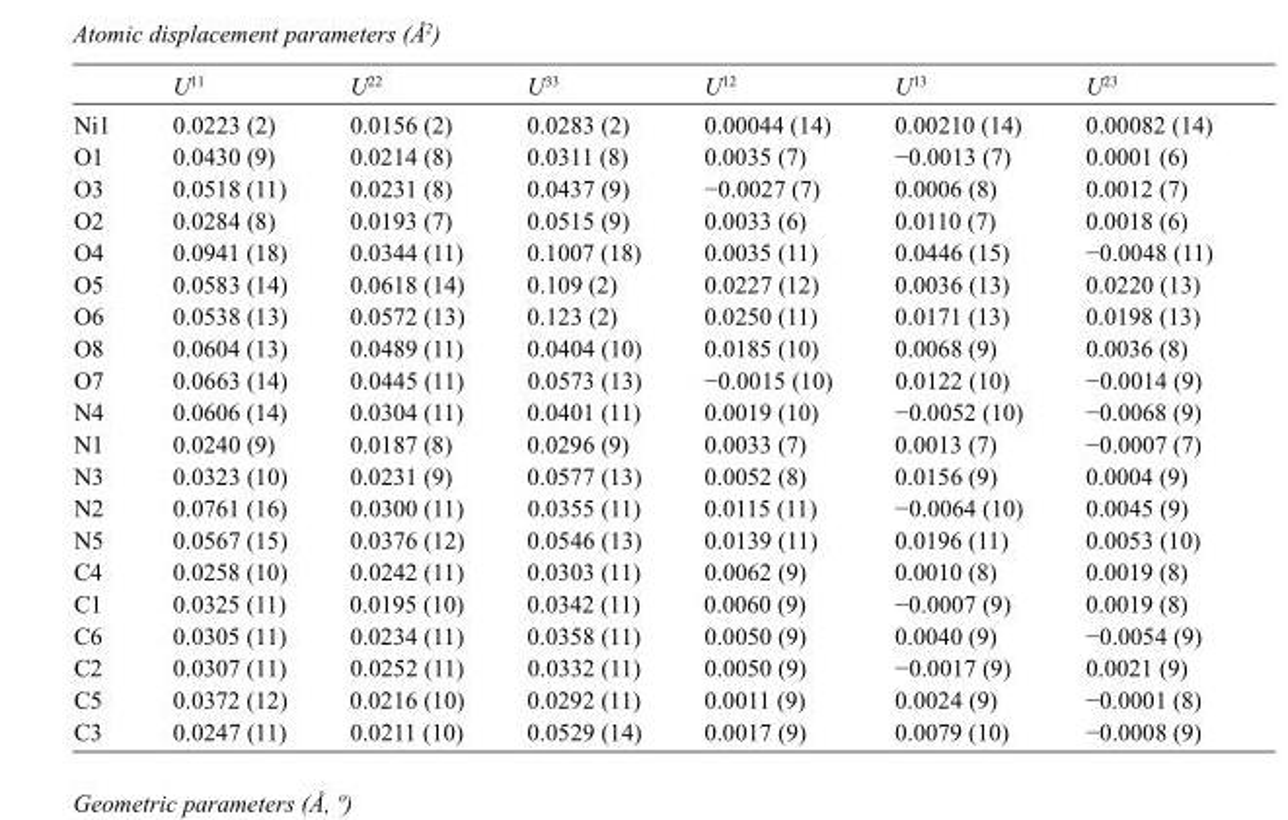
<table><thead><tr><td></td><td>U<sup>11</sup></td><td>U<sup>22</sup></td><td>U<sup>33</sup></td><td>U<sup>12</sup></td><td>U<sup>13</sup></td><td>U<sup>23</sup></td></tr></thead><tbody><tr><td>Ni1</td><td>0.0223 (2)</td><td>0.0156 (2)</td><td>0.0283 (2)</td><td>0.00044 (14)</td><td>0.00210 (14)</td><td>0.00082 (14)</td></tr><tr><td>O1</td><td>0.0430 (9)</td><td>0.0214 (8)</td><td>0.0311 (8)</td><td>0.0035 (7)</td><td>−0.0013 (7)</td><td>0.0001 (6)</td></tr><tr><td>O3</td><td>0.0518 (11)</td><td>0.0231 (8)</td><td>0.0437 (9)</td><td>−0.0027 (7)</td><td>0.0006 (8)</td><td>0.0012 (7)</td></tr><tr><td>O2</td><td>0.0284 (8)</td><td>0.0193 (7)</td><td>0.0515 (9)</td><td>0.0033 (6)</td><td>0.0110 (7)</td><td>0.0018 (6)</td></tr><tr><td>O4</td><td>0.0941 (18)</td><td>0.0344 (11)</td><td>0.1007 (18)</td><td>0.0035 (11)</td><td>0.0446 (15)</td><td>−0.0048 (11)</td></tr><tr><td>O5</td><td>0.0583 (14)</td><td>0.0618 (14)</td><td>0.109 (2)</td><td>0.0227 (12)</td><td>0.0036 (13)</td><td>0.0220 (13)</td></tr><tr><td>O6</td><td>0.0538 (13)</td><td>0.0572 (13)</td><td>0.123 (2)</td><td>0.0250 (11)</td><td>0.0171 (13)</td><td>0.0198 (13)</td></tr><tr><td>O8</td><td>0.0604 (13)</td><td>0.0489 (11)</td><td>0.0404 (10)</td><td>0.0185 (10)</td><td>0.0068 (9)</td><td>0.0036 (8)</td></tr><tr><td>O7</td><td>0.0663 (14)</td><td>0.0445 (11)</td><td>0.0573 (13)</td><td>−0.0015 (10)</td><td>0.0122 (10)</td><td>−0.0014 (9)</td></tr><tr><td>N4</td><td>0.0606 (14)</td><td>0.0304 (11)</td><td>0.0401 (11)</td><td>0.0019 (10)</td><td>−0.0052 (10)</td><td>−0.0068 (9)</td></tr><tr><td>N1</td><td>0.0240 (9)</td><td>0.0187 (8)</td><td>0.0296 (9)</td><td>0.0033 (7)</td><td>0.0013 (7)</td><td>−0.0007 (7)</td></tr><tr><td>N3</td><td>0.0323 (10)</td><td>0.0231 (9)</td><td>0.0577 (13)</td><td>0.0052 (8)</td><td>0.0156 (9)</td><td>0.0004 (9)</td></tr><tr><td>N2</td><td>0.0761 (16)</td><td>0.0300 (11)</td><td>0.0355 (11)</td><td>0.0115 (11)</td><td>−0.0064 (10)</td><td>0.0045 (9)</td></tr><tr><td>N5</td><td>0.0567 (15)</td><td>0.0376 (12)</td><td>0.0546 (13)</td><td>0.0139 (11)</td><td>0.0196 (11)</td><td>0.0053 (10)</td></tr><tr><td>C4</td><td>0.0258 (10)</td><td>0.0242 (11)</td><td>0.0303 (11)</td><td>0.0062 (9)</td><td>0.0010 (8)</td><td>0.0019 (8)</td></tr><tr><td>C1</td><td>0.0325 (11)</td><td>0.0195 (10)</td><td>0.0342 (11)</td><td>0.0060 (9)</td><td>−0.0007 (9)</td><td>0.0019 (8)</td></tr><tr><td>C6</td><td>0.0305 (11)</td><td>0.0234 (11)</td><td>0.0358 (11)</td><td>0.0050 (9)</td><td>0.0040 (9)</td><td>−0.0054 (9)</td></tr><tr><td>C2</td><td>0.0307 (11)</td><td>0.0252 (11)</td><td>0.0332 (11)</td><td>0.0050 (9)</td><td>−0.0017 (9)</td><td>0.0021 (9)</td></tr><tr><td>C5</td><td>0.0372 (12)</td><td>0.0216 (10)</td><td>0.0292 (11)</td><td>0.0011 (9)</td><td>0.0024 (9)</td><td>−0.0001 (8)</td></tr><tr><td>C3</td><td>0.0247 (11)</td><td>0.0211 (10)</td><td>0.0529 (14)</td><td>0.0017 (9)</td><td>0.0079 (10)</td><td>−0.0008 (9)</td></tr></tbody></table>